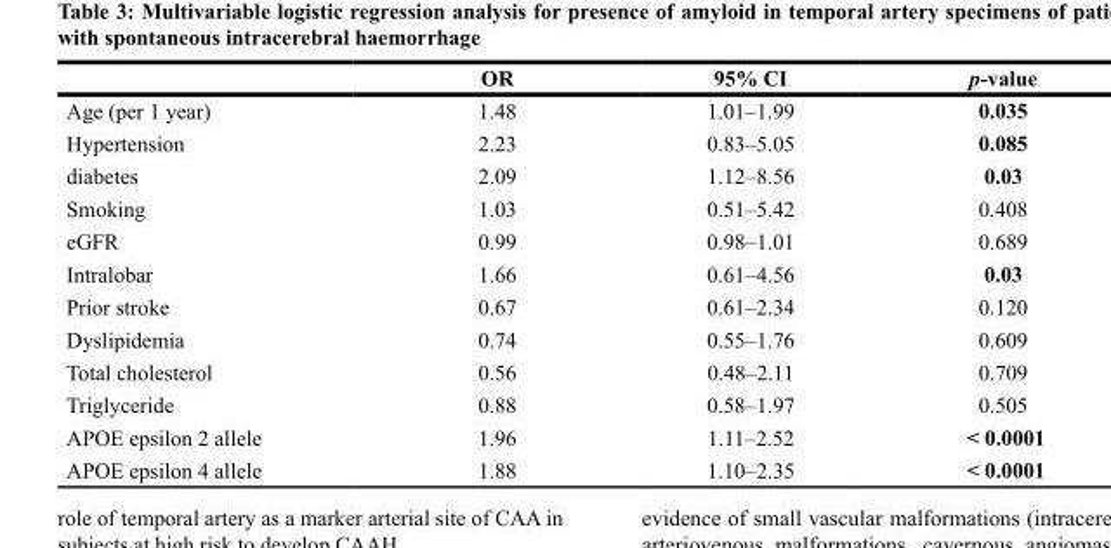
<table><thead><tr><td></td><td>OR</td><td>95% CI</td><td>p-value</td></tr></thead><tbody><tr><td>Age (per 1 year)</td><td>1.48</td><td>1.01–1.99</td><td>0.035</td></tr><tr><td>Hypertension</td><td>2.23</td><td>0.83–5.05</td><td>0.085</td></tr><tr><td>diabetes</td><td>2.09</td><td>1.12–8.56</td><td>0.03</td></tr><tr><td>Smoking</td><td>1.03</td><td>0.51–5.42</td><td>0.408</td></tr><tr><td>eGFR</td><td>0.99</td><td>0.98–1.01</td><td>0.689</td></tr><tr><td>Intralobar</td><td>1.66</td><td>0.61–4.56</td><td>0.03</td></tr><tr><td>Prior stroke</td><td>0.67</td><td>0.61–2.34</td><td>0.120</td></tr><tr><td>Dyslipidemia</td><td>0.74</td><td>0.55–1.76</td><td>0.609</td></tr><tr><td>Total cholesterol</td><td>0.56</td><td>0.48–2.11</td><td>0.709</td></tr><tr><td>Triglyceride</td><td>0.88</td><td>0.58–1.97</td><td>0.505</td></tr><tr><td>APOE epsilon 2 allele</td><td>1.96</td><td>1.11–2.52</td><td>&lt; 0.0001</td></tr><tr><td>APOE epsilon 4 allele</td><td>1.88</td><td>1.10–2.35</td><td>&lt; 0.0001</td></tr></tbody></table>